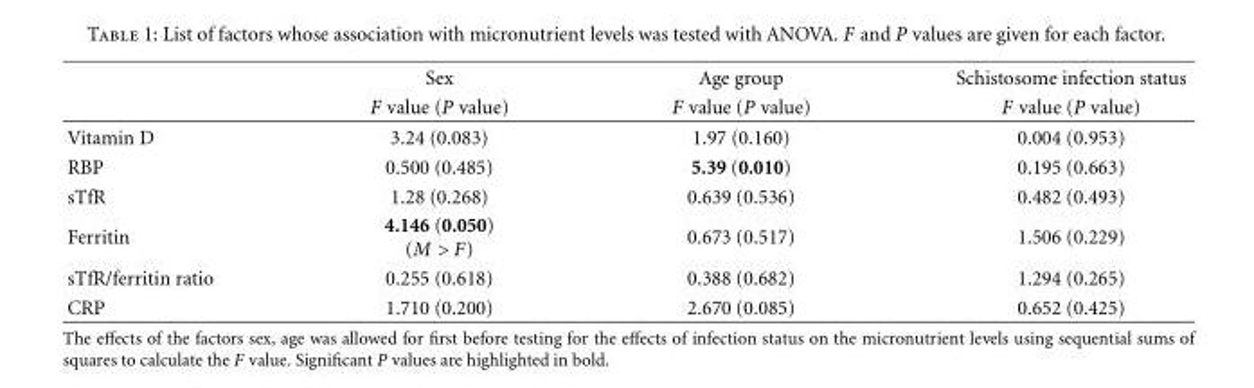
<table><thead><tr><td rowspan="2"></td><td rowspan="2">Sex F value (P value)</td><td rowspan="2">Age group F value (P value)</td><td rowspan="2">Schistosome infection status F value (P value)</td></tr><tr></tr></thead><tbody><tr><td>Vitamin D</td><td>3.24 (0.083)</td><td>1.97 (0.160)</td><td>0.004 (0.953)</td></tr><tr><td>RBP</td><td>0.500 (0.485)</td><td>5.39 (0.010)</td><td>0.195 (0.663)</td></tr><tr><td>sTfR</td><td>1.28 (0.268)</td><td>0.639 (0.536)</td><td>0.482 (0.493)</td></tr><tr><td>Ferritin</td><td>4.146 (0.050) (M &gt; F)</td><td>0.673 (0.517)</td><td>1.506 (0.229)</td></tr><tr><td>sTfR/ferritin ratio</td><td>0.255 (0.618)</td><td>0.388 (0.682)</td><td>1.294 (0.265)</td></tr><tr><td>CRP</td><td>1.710 (0.200)</td><td>2.670 (0.085)</td><td>0.652 (0.425)</td></tr></tbody></table>